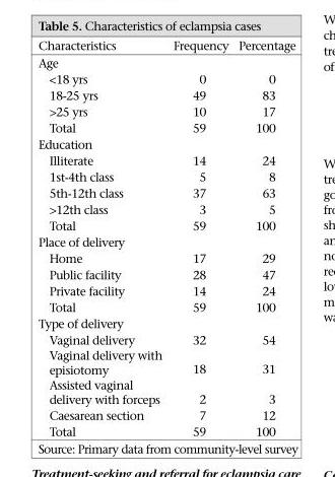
<table><thead><tr><td>Characteristics</td><td>Frequency</td><td>Percentage</td></tr></thead><tbody><tr><td colspan="3">Age</td></tr><tr><td>&lt;18 yrs</td><td>0</td><td>0</td></tr><tr><td>18-25 yrs</td><td>49</td><td>83</td></tr><tr><td>&gt;25 yrs</td><td>10</td><td>17</td></tr><tr><td>Total</td><td>59</td><td>100</td></tr><tr><td colspan="3">Education</td></tr><tr><td>Illiterate</td><td>14</td><td>24</td></tr><tr><td>1st-4th class</td><td>5</td><td>8</td></tr><tr><td>5th-12th class</td><td>37</td><td>63</td></tr><tr><td>&gt;12th class</td><td>3</td><td>5</td></tr><tr><td>Total</td><td>59</td><td>100</td></tr><tr><td colspan="3">Place of delivery</td></tr><tr><td>Home</td><td>17</td><td>29</td></tr><tr><td>Public facility</td><td>28</td><td>47</td></tr><tr><td>Private facility</td><td>14</td><td>24</td></tr><tr><td>Total</td><td>59</td><td>100</td></tr><tr><td colspan="3">Type of delivery</td></tr><tr><td>Vaginal delivery</td><td>32</td><td>54</td></tr><tr><td>Vaginal delivery with episiotomy</td><td>18</td><td>31</td></tr><tr><td>Assisted vaginal delivery with forceps</td><td>2</td><td>3</td></tr><tr><td>Caesarean section</td><td>7</td><td>12</td></tr><tr><td>Total</td><td>59</td><td>100</td></tr></tbody></table>